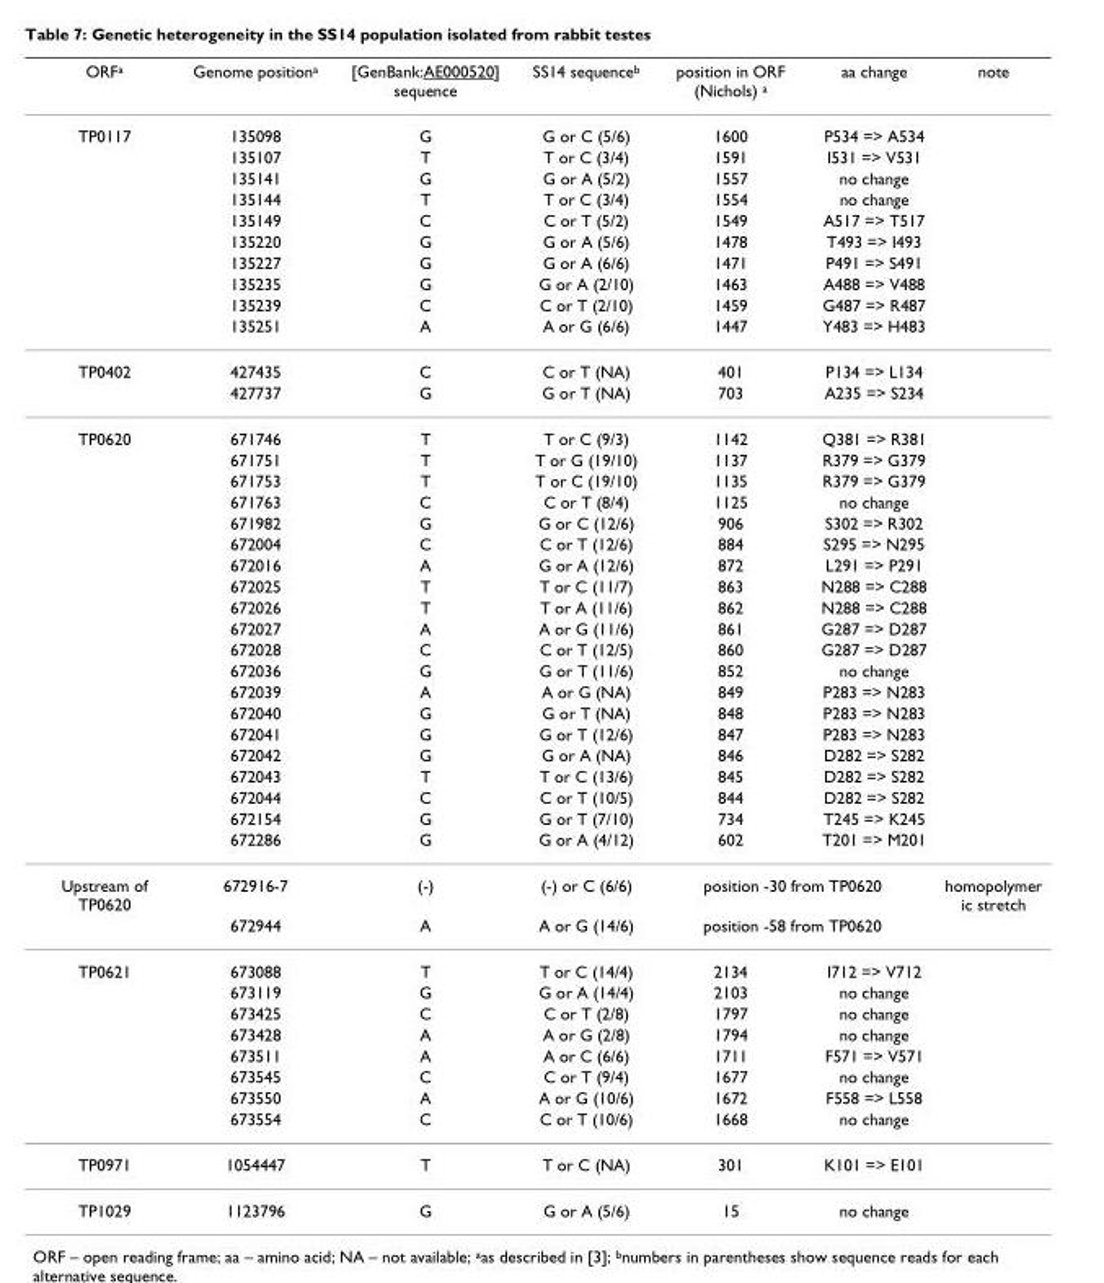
<table><thead><tr><td>ORF<sup>a</sup></td><td>Genome position<sup>a</sup></td><td>[GenBank:AE000520] sequence</td><td>SS14 sequence<sup>b</sup></td><td>position in ORF (Nichols) <sup>a</sup></td><td>aa change</td><td>note</td></tr></thead><tbody><tr><td rowspan="10">TP0117</td><td>135098</td><td>G</td><td>G or C (5/6)</td><td>1600</td><td>P534 =&gt; A534</td><td></td></tr><tr><td>135107</td><td>T</td><td>T or C (3/4)</td><td>1591</td><td>I531 =&gt; V531</td><td></td></tr><tr><td>135141</td><td>G</td><td>G or A (5/2)</td><td>1557</td><td>no change</td><td></td></tr><tr><td>135144</td><td>T</td><td>T or C (3/4)</td><td>1554</td><td>no change</td><td></td></tr><tr><td>135149</td><td>C</td><td>C or T (5/2)</td><td>1549</td><td>A517 =&gt; T517</td><td></td></tr><tr><td>135220</td><td>G</td><td>G or A (5/6)</td><td>1478</td><td>T493 =&gt; I493</td><td></td></tr><tr><td>135227</td><td>G</td><td>G or A (6/6)</td><td>1471</td><td>P491 =&gt; S491</td><td></td></tr><tr><td>135235</td><td>G</td><td>G or A (2/10)</td><td>1463</td><td>A488 =&gt; V488</td><td></td></tr><tr><td>135239</td><td>C</td><td>C or T (2/10)</td><td>1459</td><td>G487 =&gt; R487</td><td></td></tr><tr><td>135251</td><td>A</td><td>A or G (6/6)</td><td>1447</td><td>Y483 =&gt; H483</td><td></td></tr><tr><td rowspan="2">TP0402</td><td>427435</td><td>C</td><td>C or T (NA)</td><td>401</td><td>P134 =&gt; L134</td><td></td></tr><tr><td>427737</td><td>G</td><td>G or T (NA)</td><td>703</td><td>A235 =&gt; S234</td><td></td></tr><tr><td rowspan="20">TP0620</td><td>671746</td><td>T</td><td>T or C (9/3)</td><td>1142</td><td>Q381 =&gt; R381</td><td></td></tr><tr><td>671751</td><td>T</td><td>T or G (19/10)</td><td>1137</td><td>R379 =&gt; G379</td><td></td></tr><tr><td>671753</td><td>T</td><td>T or C (19/10)</td><td>1135</td><td>R379 =&gt; G379</td><td></td></tr><tr><td>671763</td><td>C</td><td>C or T (8/4)</td><td>1125</td><td>no change</td><td></td></tr><tr><td>671982</td><td>G</td><td>G or C (12/6)</td><td>906</td><td>S302 =&gt; R302</td><td></td></tr><tr><td>672004</td><td>C</td><td>C or T (12/6)</td><td>884</td><td>S295 =&gt; N295</td><td></td></tr><tr><td>672016</td><td>A</td><td>G or A (12/6)</td><td>872</td><td>L291 =&gt; P291</td><td></td></tr><tr><td>672025</td><td>T</td><td>T or C (11/7)</td><td>863</td><td>N288 =&gt; C288</td><td></td></tr><tr><td>672026</td><td>T</td><td>T or A (11/6)</td><td>862</td><td>N288 =&gt; C288</td><td></td></tr><tr><td>672027</td><td>A</td><td>A or G (11/6)</td><td>861</td><td>G287 =&gt; D287</td><td></td></tr><tr><td>672028</td><td>C</td><td>C or T (12/5)</td><td>860</td><td>G287 =&gt; D287</td><td></td></tr><tr><td>672036</td><td>G</td><td>G or T (11/6)</td><td>852</td><td>no change</td><td></td></tr><tr><td>672039</td><td>A</td><td>A or G (NA)</td><td>849</td><td>P283 =&gt; N283</td><td></td></tr><tr><td>672040</td><td>G</td><td>G or T (NA)</td><td>848</td><td>P283 =&gt; N283</td><td></td></tr><tr><td>672041</td><td>G</td><td>G or T (12/6)</td><td>847</td><td>P283 =&gt; N283</td><td></td></tr><tr><td>672042</td><td>G</td><td>G or A (NA)</td><td>846</td><td>D282 =&gt; S282</td><td></td></tr><tr><td>672043</td><td>T</td><td>T or C (13/6)</td><td>845</td><td>D282 =&gt; S282</td><td></td></tr><tr><td>672044</td><td>C</td><td>C or T (10/5)</td><td>844</td><td>D282 =&gt; S282</td><td></td></tr><tr><td>672154</td><td>G</td><td>G or T (7/10)</td><td>734</td><td>T245 =&gt; K245</td><td></td></tr><tr><td>672286</td><td>G</td><td>G or A (4/12)</td><td>602</td><td>T201 =&gt; M201</td><td></td></tr><tr><td rowspan="2">Upstream of TP0620</td><td>672916-7</td><td>(-)</td><td>(-) or C (6/6)</td><td colspan="2">position -30 from TP0620</td><td>homopolymer ic stretch</td></tr><tr><td>672944</td><td>A</td><td>A or G (14/6)</td><td colspan="2">position -58 from TP0620</td><td></td></tr><tr><td rowspan="8">TP0621</td><td>673088</td><td>T</td><td>T or C (14/4)</td><td>2134</td><td>I712 =&gt; V712</td><td></td></tr><tr><td>673119</td><td>G</td><td>G or A (14/4)</td><td>2103</td><td>no change</td><td></td></tr><tr><td>673425</td><td>C</td><td>C or T (2/8)</td><td>1797</td><td>no change</td><td></td></tr><tr><td>673428</td><td>A</td><td>A or G (2/8)</td><td>1794</td><td>no change</td><td></td></tr><tr><td>673511</td><td>A</td><td>A or C (6/6)</td><td>1711</td><td>F571 =&gt; V571</td><td></td></tr><tr><td>673545</td><td>C</td><td>C or T (9/4)</td><td>1677</td><td>no change</td><td></td></tr><tr><td>673550</td><td>A</td><td>A or G (10/6)</td><td>1672</td><td>F558 =&gt; L558</td><td></td></tr><tr><td>673554</td><td>C</td><td>C or T (10/6)</td><td>1668</td><td>no change</td><td></td></tr><tr><td>TP0971</td><td>1054447</td><td>T</td><td>T or C (NA)</td><td>301</td><td>K101 =&gt; E101</td><td></td></tr><tr><td>TP1029</td><td>1123796</td><td>G</td><td>G or A (5/6)</td><td>15</td><td>no change</td><td></td></tr></tbody></table>